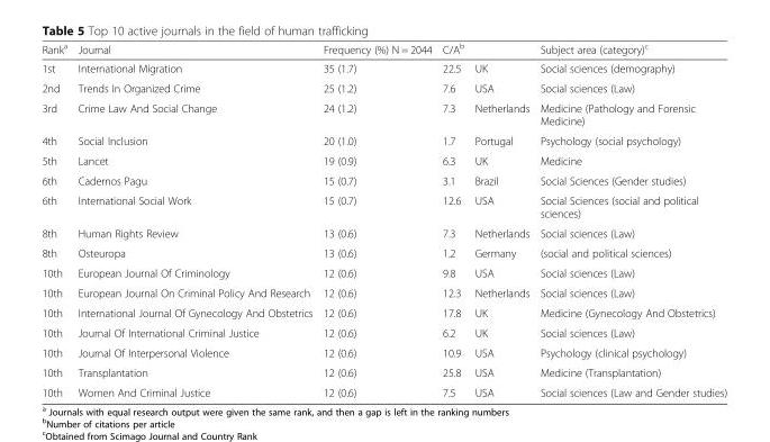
<table><thead><tr><td>Rank<sup>a</sup></td><td>Journal</td><td>Frequency (%) N = 2044</td><td>C/A<sup>b</sup></td><td></td><td>Subject area (category)<sup>c</sup></td></tr></thead><tbody><tr><td>1st</td><td>International Migration</td><td>35 (1.7)</td><td>22.5</td><td>UK</td><td>Social sciences (demography)</td></tr><tr><td>2nd</td><td>Trends In Organized Crime</td><td>25 (1.2)</td><td>7.6</td><td>USA</td><td>Social sciences (Law)</td></tr><tr><td>3rd</td><td>Crime Law And Social Change</td><td>24 (1.2)</td><td>7.3</td><td>Netherlands</td><td>Medicine (Pathology and Forensic Medicine)</td></tr><tr><td>4th</td><td>Social Inclusion</td><td>20 (1.0)</td><td>1.7</td><td>Portugal</td><td>Psychology (social psychology)</td></tr><tr><td>5th</td><td>Lancet</td><td>19 (0.9)</td><td>6.3</td><td>UK</td><td>Medicine</td></tr><tr><td>6th</td><td>Cadernos Pagu</td><td>15 (0.7)</td><td>3.1</td><td>Brazil</td><td>Social Sciences (Gender studies)</td></tr><tr><td>6th</td><td>International Social Work</td><td>15 (0.7)</td><td>12.6</td><td>USA</td><td>Social Sciences (social and political sciences)</td></tr><tr><td>8th</td><td>Human Rights Review</td><td>13 (0.6)</td><td>7.3</td><td>Netherlands</td><td>Social sciences (Law)</td></tr><tr><td>8th</td><td>Osteuropa</td><td>13 (0.6)</td><td>1.2</td><td>Germany</td><td>(social and political sciences)</td></tr><tr><td>10th</td><td>European Journal Of Criminology</td><td>12 (0.6)</td><td>9.8</td><td>USA</td><td>Social sciences (Law)</td></tr><tr><td>10th</td><td>European Journal On Criminal Policy And Research</td><td>12 (0.6)</td><td>12.3</td><td>Netherlands</td><td>Social sciences (Law)</td></tr><tr><td>10th</td><td>International Journal Of Gynecology And Obstetrics</td><td>12 (0.6)</td><td>17.8</td><td>UK</td><td>Medicine (Gynecology And Obstetrics)</td></tr><tr><td>10th</td><td>Journal Of International Criminal Justice</td><td>12 (0.6)</td><td>6.2</td><td>UK</td><td>Social sciences (Law)</td></tr><tr><td>10th</td><td>Journal Of Interpersonal Violence</td><td>12 (0.6)</td><td>10.9</td><td>USA</td><td>Psychology (clinical psychology)</td></tr><tr><td>10th</td><td>Transplantation</td><td>12 (0.6)</td><td>25.8</td><td>USA</td><td>Medicine (Transplantation)</td></tr><tr><td>10th</td><td>Women And Criminal Justice</td><td>12 (0.6)</td><td>7.5</td><td>USA</td><td>Social sciences (Law and Gender studies)</td></tr></tbody></table>